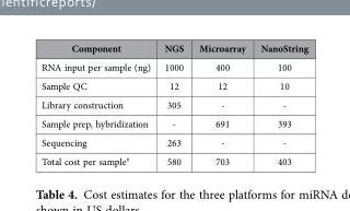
<table><thead><tr><td>Component</td><td>NGS</td><td>Microarray</td><td>NanoString</td></tr></thead><tbody><tr><td>RNA input per sample (ng)</td><td>1000</td><td>400</td><td>100</td></tr><tr><td>Sample QC</td><td>12</td><td>12</td><td>10</td></tr><tr><td>Library construction</td><td>305</td><td>-</td><td>-</td></tr><tr><td>Sample prep, hybridization</td><td>-</td><td>691</td><td>393</td></tr><tr><td>Sequencing</td><td>263</td><td>-</td><td>-</td></tr><tr><td>Total cost per sample<sup>#</sup></td><td>580</td><td>703</td><td>403</td></tr></tbody></table>